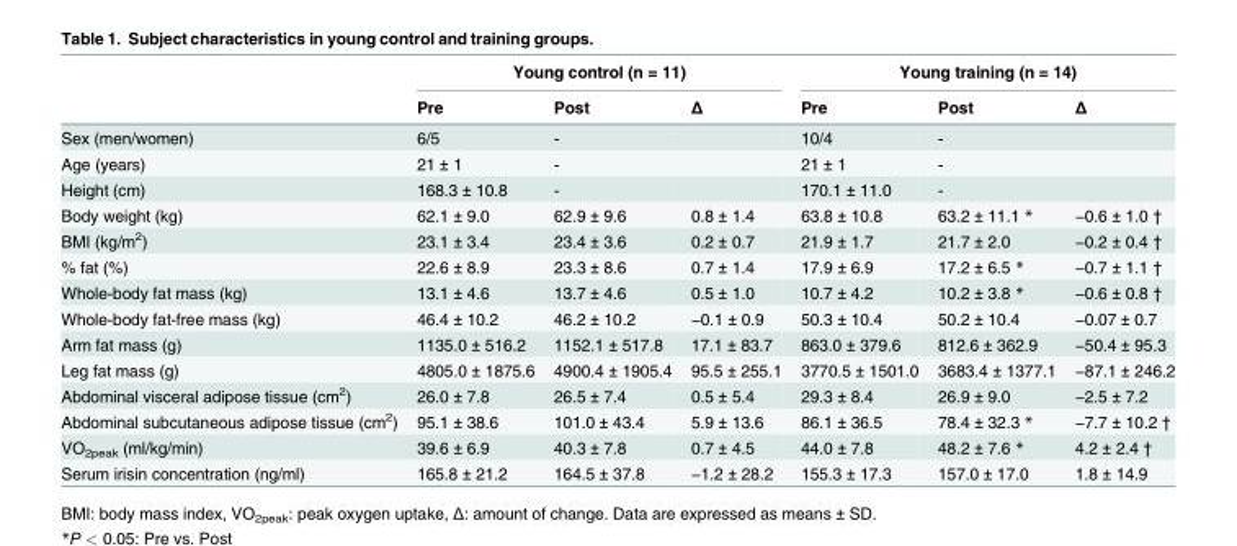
<table><thead><tr><td rowspan="2"></td><td colspan="3">Young control (n = 11)</td><td colspan="3">Young training (n = 14)</td></tr><tr><td>Pre</td><td>Post</td><td>Δ</td><td>Pre</td><td>Post</td><td>Δ</td></tr></thead><tbody><tr><td>Sex (men/women)</td><td>6/5</td><td>-</td><td></td><td>10/4</td><td>-</td><td></td></tr><tr><td>Age (years)</td><td>21 ± 1</td><td>-</td><td></td><td>21 ± 1</td><td>-</td><td></td></tr><tr><td>Height (cm)</td><td>168.3 ± 10.8</td><td>-</td><td></td><td>170.1 ± 11.0</td><td>-</td><td></td></tr><tr><td>Body weight (kg)</td><td>62.1 ± 9.0</td><td>62.9 ± 9.6</td><td>0.8 ± 1.4</td><td>63.8 ± 10.8</td><td>63.2 ± 11.1 *</td><td>−0.6 ± 1.0 †</td></tr><tr><td>BMI (kg/m<sup>2</sup>)</td><td>23.1 ± 3.4</td><td>23.4 ± 3.6</td><td>0.2 ± 0.7</td><td>21.9 ± 1.7</td><td>21.7 ± 2.0</td><td>−0.2 ± 0.4 †</td></tr><tr><td>% fat (%)</td><td>22.6 ± 8.9</td><td>23.3 ± 8.6</td><td>0.7 ± 1.4</td><td>17.9 ± 6.9</td><td>17.2 ± 6.5 *</td><td>−0.7 ± 1.1 †</td></tr><tr><td>Whole-body fat mass (kg)</td><td>13.1 ± 4.6</td><td>13.7 ± 4.6</td><td>0.5 ± 1.0</td><td>10.7 ± 4.2</td><td>10.2 ± 3.8 *</td><td>−0.6 ± 0.8 †</td></tr><tr><td>Whole-body fat-free mass (kg)</td><td>46.4 ± 10.2</td><td>46.2 ± 10.2</td><td>−0.1 ± 0.9</td><td>50.3 ± 10.4</td><td>50.2 ± 10.4</td><td>−0.07 ± 0.7</td></tr><tr><td>Arm fat mass (g)</td><td>1135.0 ± 516.2</td><td>1152.1 ± 517.8</td><td>17.1 ± 83.7</td><td>863.0 ± 379.6</td><td>812.6 ± 362.9</td><td>−50.4 ± 95.3</td></tr><tr><td>Leg fat mass (g)</td><td>4805.0 ± 1875.6</td><td>4900.4 ± 1905.4</td><td>95.5 ± 255.1</td><td>3770.5 ± 1501.0</td><td>3683.4 ± 1377.1</td><td>−87.1 ± 246.2</td></tr><tr><td>Abdominal visceral adipose tissue (cm<sup>2</sup>)</td><td>26.0 ± 7.8</td><td>26.5 ± 7.4</td><td>0.5 ± 5.4</td><td>29.3 ± 8.4</td><td>26.9 ± 9.0</td><td>−2.5 ± 7.2</td></tr><tr><td>Abdominal subcutaneous adipose tissue (cm<sup>2</sup>)</td><td>95.1 ± 38.6</td><td>101.0 ± 43.4</td><td>5.9 ± 13.6</td><td>86.1 ± 36.5</td><td>78.4 ± 32.3 *</td><td>−7.7 ± 10.2 †</td></tr><tr><td>VO<sub>2peak</sub> (ml/kg/min)</td><td>39.6 ± 6.9</td><td>40.3 ± 7.8</td><td>0.7 ± 4.5</td><td>44.0 ± 7.8</td><td>48.2 ± 7.6 *</td><td>4.2 ± 2.4 †</td></tr><tr><td>Serum irisin concentration (ng/ml)</td><td>165.8 ± 21.2</td><td>164.5 ± 37.8</td><td>−1.2 ± 28.2</td><td>155.3 ± 17.3</td><td>157.0 ± 17.0</td><td>1.8 ± 14.9</td></tr></tbody></table>